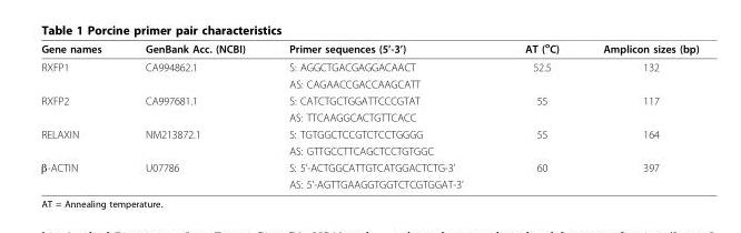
<table><thead><tr><td>Gene names</td><td>GenBank Acc. (NCBI)</td><td>Primer sequences (5’-3’)</td><td>AT (<sup>o</sup>C)</td><td>Amplicon sizes (bp)</td></tr></thead><tbody><tr><td rowspan="2">RXFP1</td><td>CA994862.1</td><td>S: AGGCTGACGAGGACAACT</td><td>52.5</td><td>132</td></tr><tr><td></td><td>AS: CAGAACCGACCAAGCATT</td><td></td><td></td></tr><tr><td rowspan="2">RXFP2</td><td>CA997681.1</td><td>S: CATCTGCTGGATTCCCGTAT</td><td>55</td><td>117</td></tr><tr><td></td><td>AS: TTCAAGGCACTGTTCACC</td><td></td><td></td></tr><tr><td rowspan="2">RELAXIN</td><td>NM213872.1</td><td>S: TGTGGCTCCGTCTCCTGGGG</td><td>55</td><td>164</td></tr><tr><td></td><td>AS: GTTGCCTTCAGCTCCTGTGGC</td><td></td><td></td></tr><tr><td rowspan="2">β-ACTIN</td><td>U07786</td><td>S: 5’-ACTGGCATTGTCATGGACTCTG-3’</td><td>60</td><td>397</td></tr><tr><td></td><td>AS: 5’-AGTTGAAGGTGGTCTCGTGGAT-3’</td><td></td><td></td></tr></tbody></table>